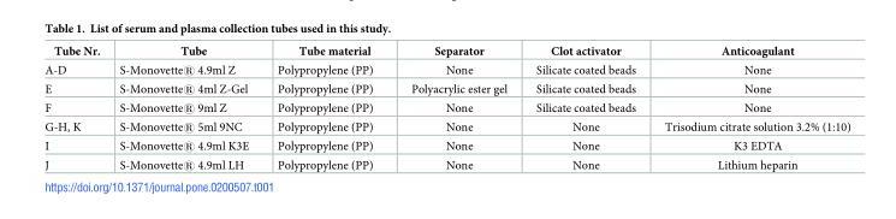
<table><thead><tr><td>Tube Nr.</td><td>Tube</td><td>Tube material</td><td>Separator</td><td>Clot activator</td><td>Anticoagulant</td></tr></thead><tbody><tr><td>A-D</td><td>S-Monovette® 4.9ml Z</td><td>Polypropylene (PP)</td><td>None</td><td>Silicate coated beads</td><td>None</td></tr><tr><td>E</td><td>S-Monovette® 4ml Z-Gel</td><td>Polypropylene (PP)</td><td>Polyacrylic ester gel</td><td>Silicate coated beads</td><td>None</td></tr><tr><td>F</td><td>S-Monovette® 9ml Z</td><td>Polypropylene (PP)</td><td>None</td><td>Silicate coated beads</td><td>None</td></tr><tr><td>G-H, K</td><td>S-Monovette® 5ml 9NC</td><td>Polypropylene (PP)</td><td>None</td><td>None</td><td>Trisodium citrate solution 3.2% (1:10)</td></tr><tr><td>I</td><td>S-Monovette® 4.9ml K3E</td><td>Polypropylene (PP)</td><td>None</td><td>None</td><td>K3 EDTA</td></tr><tr><td>J</td><td>S-Monovette® 4.9ml LH</td><td>Polypropylene (PP)</td><td>None</td><td>None</td><td>Lithium heparin</td></tr></tbody></table>